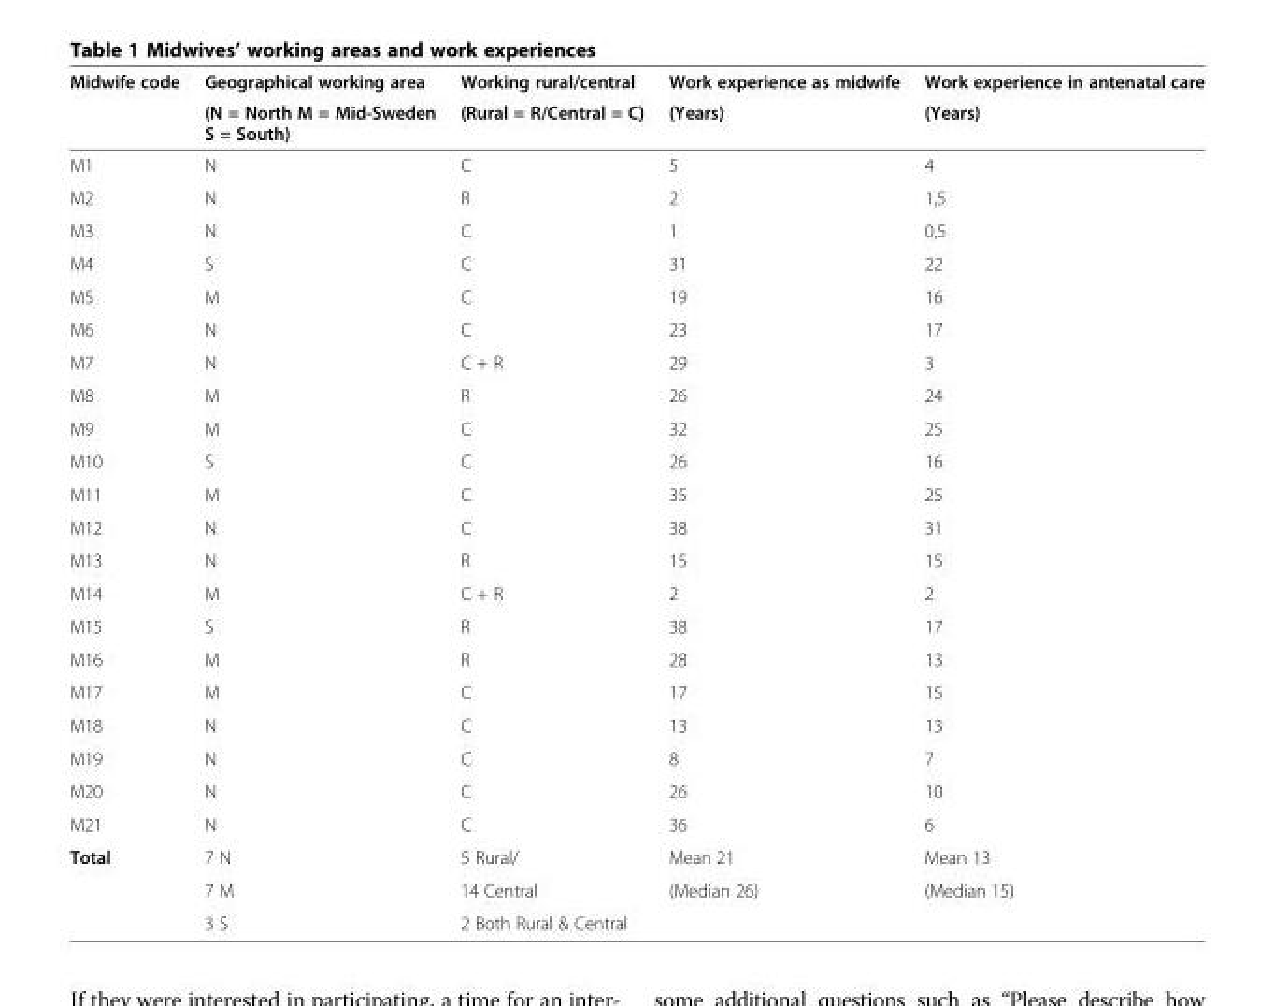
<table><thead><tr><td rowspan="2">Midwife code</td><td rowspan="2">Geographical working area (N = North M = Mid-Sweden S = South)</td><td rowspan="2">Working rural/central (Rural = R/Central = C)</td><td rowspan="2">Work experience as midwife (Years)</td><td rowspan="2">Work experience in antenatal care (Years)</td></tr><tr></tr></thead><tbody><tr><td>M1</td><td>N</td><td>C</td><td>5</td><td>4</td></tr><tr><td>M2</td><td>N</td><td>R</td><td>2</td><td>1,5</td></tr><tr><td>M3</td><td>N</td><td>C</td><td>1</td><td>0,5</td></tr><tr><td>M4</td><td>S</td><td>C</td><td>31</td><td>22</td></tr><tr><td>M5</td><td>M</td><td>C</td><td>19</td><td>16</td></tr><tr><td>M6</td><td>N</td><td>C</td><td>23</td><td>17</td></tr><tr><td>M7</td><td>N</td><td>C + R</td><td>29</td><td>3</td></tr><tr><td>M8</td><td>M</td><td>R</td><td>26</td><td>24</td></tr><tr><td>M9</td><td>M</td><td>C</td><td>32</td><td>25</td></tr><tr><td>M10</td><td>S</td><td>C</td><td>26</td><td>16</td></tr><tr><td>M11</td><td>M</td><td>C</td><td>35</td><td>25</td></tr><tr><td>M12</td><td>N</td><td>C</td><td>38</td><td>31</td></tr><tr><td>M13</td><td>N</td><td>R</td><td>15</td><td>15</td></tr><tr><td>M14</td><td>M</td><td>C + R</td><td>2</td><td>2</td></tr><tr><td>M15</td><td>S</td><td>R</td><td>38</td><td>17</td></tr><tr><td>M16</td><td>M</td><td>R</td><td>28</td><td>13</td></tr><tr><td>M17</td><td>M</td><td>C</td><td>17</td><td>15</td></tr><tr><td>M18</td><td>N</td><td>C</td><td>13</td><td>13</td></tr><tr><td>M19</td><td>N</td><td>C</td><td>8</td><td>7</td></tr><tr><td>M20</td><td>N</td><td>C</td><td>26</td><td>10</td></tr><tr><td>M21</td><td>N</td><td>C</td><td>36</td><td>6</td></tr><tr><td rowspan="3">Total</td><td>7 N</td><td>5 Rural/</td><td>Mean 21</td><td>Mean 13</td></tr><tr><td>7 M</td><td>14 Central</td><td>(Median 26)</td><td>(Median 15)</td></tr><tr><td>3 S</td><td>2 Both Rural &amp; Central</td><td></td><td></td></tr></tbody></table>